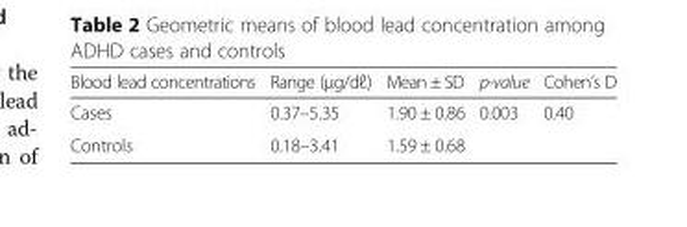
<table><thead><tr><td>Blood lead concentrations</td><td>Range (μg/dℓ)</td><td>Mean ± SD</td><td>p-value</td><td>Cohen’s D</td></tr></thead><tbody><tr><td>Cases</td><td>0.37–5.35</td><td>1.90 ± 0.86</td><td>0.003</td><td>0.40</td></tr><tr><td>Controls</td><td>0.18–3.41</td><td>1.59 ± 0.68</td><td></td><td></td></tr></tbody></table>